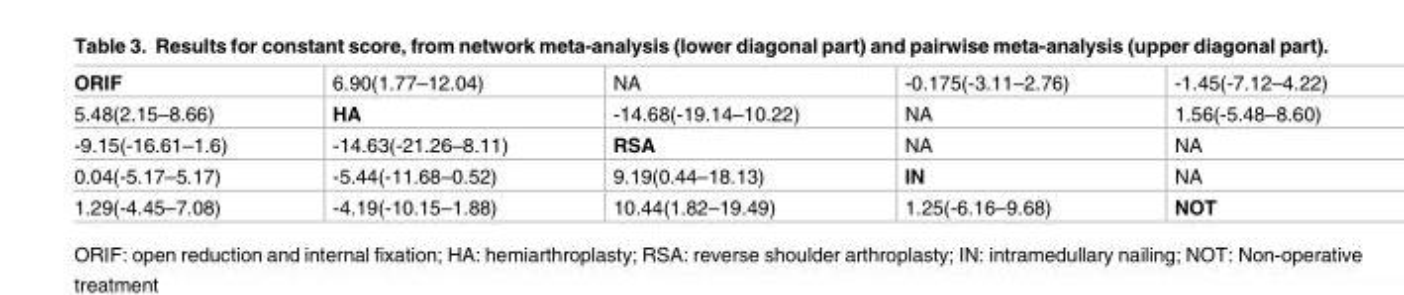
<table><tbody><tr><td>ORIF</td><td>6.90(1.77–12.04)</td><td>NA</td><td>-0.175(-3.11–2.76)</td><td>-1.45(-7.12–4.22)</td></tr><tr><td>5.48(2.15–8.66)</td><td>HA</td><td>-14.68(-19.14–10.22)</td><td>NA</td><td>1.56(-5.48–8.60)</td></tr><tr><td>-9.15(-16.61–1.6)</td><td>-14.63(-21.26–8.11)</td><td>RSA</td><td>NA</td><td>NA</td></tr><tr><td>0.04(-5.17–5.17)</td><td>-5.44(-11.68–0.52)</td><td>9.19(0.44–18.13)</td><td>IN</td><td>NA</td></tr><tr><td>1.29(-4.45–7.08)</td><td>-4.19(-10.15–1.88)</td><td>10.44(1.82–19.49)</td><td>1.25(-6.16–9.68)</td><td>NOT</td></tr></tbody></table>